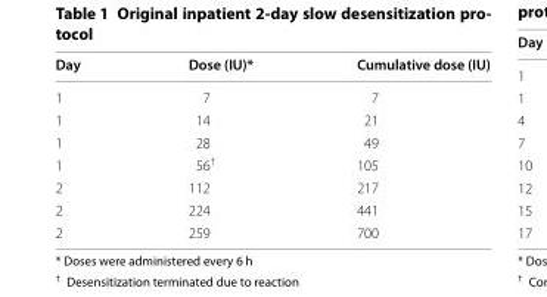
<table><thead><tr><td>Day</td><td>Dose (IU)*</td><td>Cumulative dose (IU)</td></tr></thead><tbody><tr><td>1</td><td>7</td><td>7</td></tr><tr><td>1</td><td>14</td><td>21</td></tr><tr><td>1</td><td>28</td><td>49</td></tr><tr><td>1</td><td>56<sup>†</sup></td><td>105</td></tr><tr><td>2</td><td>112</td><td>217</td></tr><tr><td>2</td><td>224</td><td>441</td></tr><tr><td>2</td><td>259</td><td>700</td></tr></tbody></table>